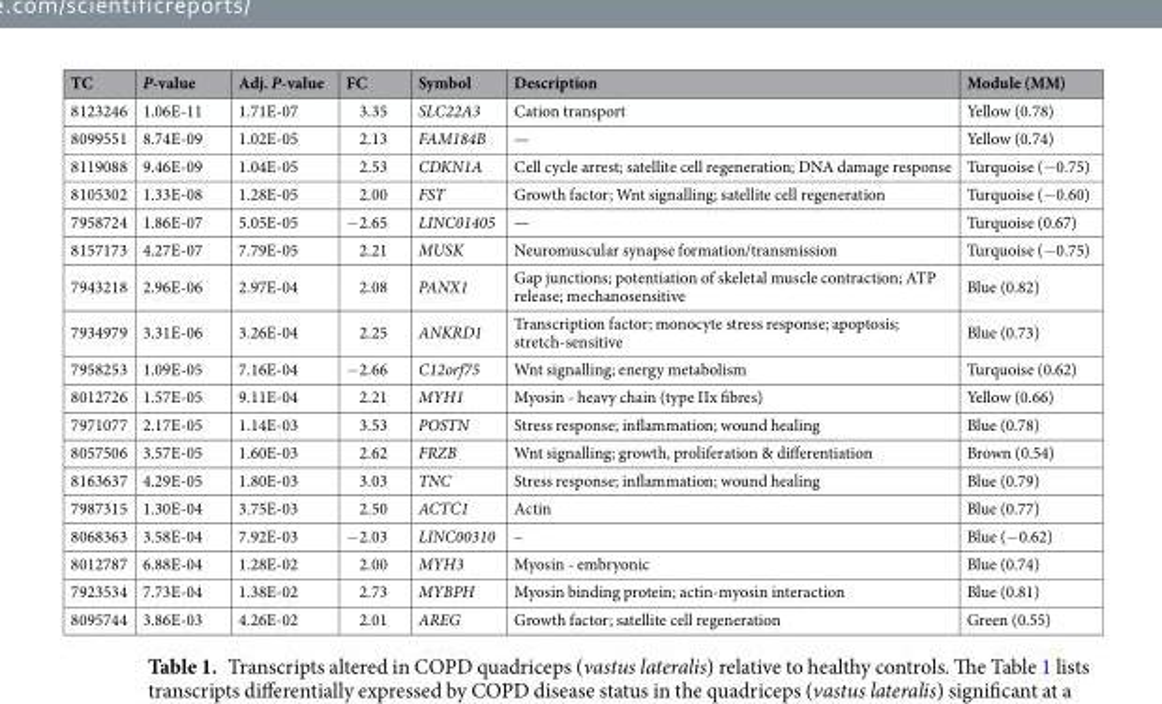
<table><thead><tr><td>TC</td><td>P-value</td><td>Adj. P-value</td><td>FC</td><td>Symbol</td><td>Description</td><td>Module (MM)</td></tr></thead><tbody><tr><td>8123246</td><td>1.06E-11</td><td>1.71E-07</td><td>3.35</td><td>SLC22A3</td><td>Cation transport</td><td>Yellow (0.78)</td></tr><tr><td>8099551</td><td>8.74E-09</td><td>1.02E-05</td><td>2.13</td><td>FAM184B</td><td>—</td><td>Yellow (0.74)</td></tr><tr><td>8119088</td><td>9.46E-09</td><td>1.04E-05</td><td>2.53</td><td>CDKN1A</td><td>Cell cycle arrest; satellite cell regeneration; DNA damage response</td><td>Turquoise (−0.75)</td></tr><tr><td>8105302</td><td>1.33E-08</td><td>1.28E-05</td><td>2.00</td><td>FST</td><td>Growth factor; Wnt signalling; satellite cell regeneration</td><td>Turquoise (−0.60)</td></tr><tr><td>7958724</td><td>1.86E-07</td><td>5.05E-05</td><td>−2.65</td><td>LINC01405</td><td>—</td><td>Turquoise (0.67)</td></tr><tr><td>8157173</td><td>4.27E-07</td><td>7.79E-05</td><td>2.21</td><td>MUSK</td><td>Neuromuscular synapse formation/transmission</td><td>Turquoise (−0.75)</td></tr><tr><td>7943218</td><td>2.96E-06</td><td>2.97E-04</td><td>2.08</td><td>PANX1</td><td>Gap junctions; potentiation of skeletal muscle contraction; ATP release; mechanosensitive</td><td>Blue (0.82)</td></tr><tr><td>7934979</td><td>3.31E-06</td><td>3.26E-04</td><td>2.25</td><td>ANKRD1</td><td>Transcription factor; monocyte stress response; apoptosis; stretch-sensitive</td><td>Blue (0.73)</td></tr><tr><td>7958253</td><td>1.09E-05</td><td>7.16E-04</td><td>−2.66</td><td>C12orf75</td><td>Wnt signalling; energy metabolism</td><td>Turquoise (0.62)</td></tr><tr><td>8012726</td><td>1.57E-05</td><td>9.11E-04</td><td>2.21</td><td>MYH1</td><td>Myosin - heavy chain (type IIx fibres)</td><td>Yellow (0.66)</td></tr><tr><td>7971077</td><td>2.17E-05</td><td>1.14E-03</td><td>3.53</td><td>POSTN</td><td>Stress response; inflammation; wound healing</td><td>Blue (0.78)</td></tr><tr><td>8057506</td><td>3.57E-05</td><td>1.60E-03</td><td>2.62</td><td>FRZB</td><td>Wnt signalling; growth, proliferation &amp; differentiation</td><td>Brown (0.54)</td></tr><tr><td>8163637</td><td>4.29E-05</td><td>1.80E-03</td><td>3.03</td><td>TNC</td><td>Stress response; inflammation; wound healing</td><td>Blue (0.79)</td></tr><tr><td>7987315</td><td>1.30E-04</td><td>3.75E-03</td><td>2.50</td><td>ACTC1</td><td>Actin</td><td>Blue (0.77)</td></tr><tr><td>8068363</td><td>3.58E-04</td><td>7.92E-03</td><td>−2.03</td><td>LINC00310</td><td>–</td><td>Blue (−0.62)</td></tr><tr><td>8012787</td><td>6.88E-04</td><td>1.28E-02</td><td>2.00</td><td>MYH3</td><td>Myosin - embryonic</td><td>Blue (0.74)</td></tr><tr><td>7923534</td><td>7.73E-04</td><td>1.38E-02</td><td>2.73</td><td>MYBPH</td><td>Myosin binding protein; actin-myosin interaction</td><td>Blue (0.81)</td></tr><tr><td>8095744</td><td>3.86E-03</td><td>4.26E-02</td><td>2.01</td><td>AREG</td><td>Growth factor; satellite cell regeneration</td><td>Green (0.55)</td></tr></tbody></table>